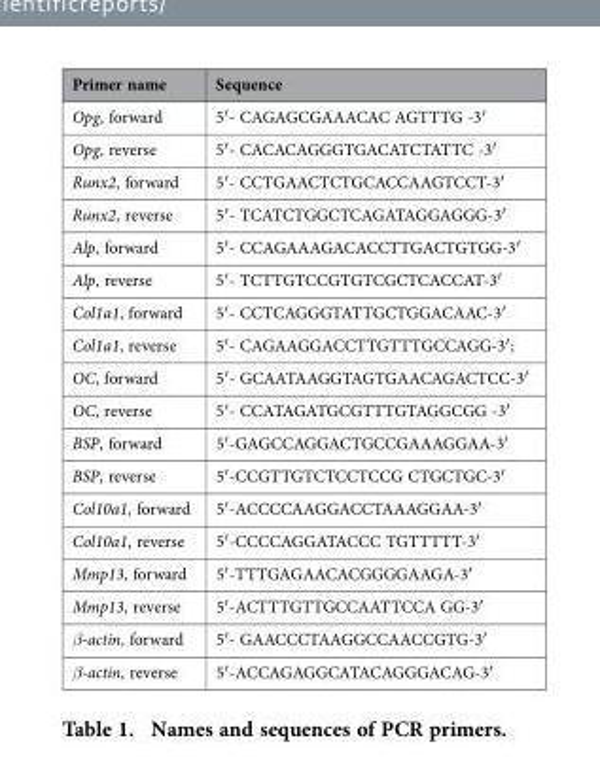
<table><thead><tr><td>Primer name</td><td>Sequence</td></tr></thead><tbody><tr><td>Opg, forward</td><td>5′ - CAGAGCGAAACAC AGTTTG -3′</td></tr><tr><td>Opg, reverse</td><td>5′ - CACACAGGGTGACATCTATTC -3′</td></tr><tr><td>Runx2, forward</td><td>5′ - CCTGAACTCTGCACCAAGTCCT-3′</td></tr><tr><td>Runx2, reverse</td><td>5′ - TCATCTGGCTCAGATAGGAGGG-3′</td></tr><tr><td>Alp, forward</td><td>5′ - CCAGAAAGACACCTTGACTGTGG-3′</td></tr><tr><td>Alp, reverse</td><td>5′ - TCTTGTCCGTGTCGCTCACCAT-3′</td></tr><tr><td>Col1a1, forward</td><td>5′ - CCTCAGGGTATTGCTGGACAAC-3′</td></tr><tr><td>Col1a1, reverse</td><td>5′ - CAGAAGGACCTTGTTTGCCAGG-3′ ;</td></tr><tr><td>OC, forward</td><td>5′ - GCAATAAGGTAGTGAACAGACTCC-3′</td></tr><tr><td>OC, reverse</td><td>5′ - CCATAGATGCGTTTGTAGGCGG -3′</td></tr><tr><td>BSP, forward</td><td>5′ -GAGCCAGGACTGCCGAAAGGAA-3′</td></tr><tr><td>BSP, reverse</td><td>5′ -CCGTTGTCTCCTCCG CTGCTGC-3′</td></tr><tr><td>Col10a1, forward</td><td>5′ -ACCCCAAGGACCTAAAGGAA-3′</td></tr><tr><td>Col10a1, reverse</td><td>5′ -CCCCAGGATACCC TGTTTTT-3′</td></tr><tr><td>Mmp13, forward</td><td>5′ -TTTGAGAACACGGGGAAGA-3′</td></tr><tr><td>Mmp13, reverse</td><td>5′ -ACTTTGTTGCCAATTCCA GG-3′</td></tr><tr><td>β-actin, forward</td><td>5′ - GAACCCTAAGGCCAACCGTG-3′</td></tr><tr><td>β-actin, reverse</td><td>5′ -ACCAGAGGCATACAGGGACAG-3′</td></tr></tbody></table>